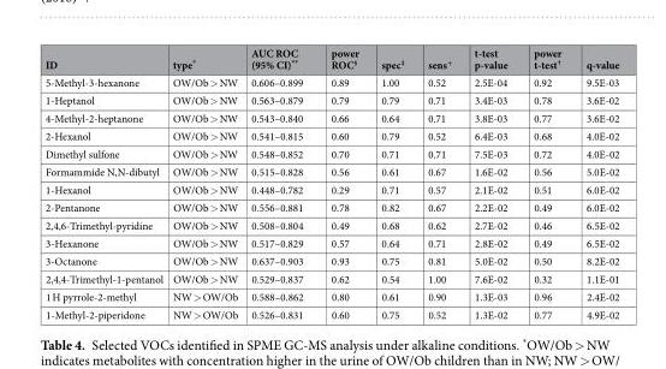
<table><thead><tr><td>ID</td><td>type*</td><td>AUC ROC (95% CI)**</td><td>power ROC<sup>§</sup></td><td>spec<sup>‡</sup></td><td>sens<sup>+</sup></td><td>t-test p-value</td><td>power t-test<sup>†</sup></td><td>q-value</td></tr></thead><tbody><tr><td>5-Methyl-3-hexanone</td><td>OW/Ob &gt; NW</td><td>0.606–0.899</td><td>0.89</td><td>1.00</td><td>0.52</td><td>2.5E-04</td><td>0.92</td><td>9.5E-03</td></tr><tr><td>1-Heptanol</td><td>OW/Ob &gt; NW</td><td>0.563–0.879</td><td>0.79</td><td>0.79</td><td>0.71</td><td>3.4E-03</td><td>0.78</td><td>3.6E-02</td></tr><tr><td>4-Methyl-2-heptanone</td><td>OW/Ob &gt; NW</td><td>0.543–0.840</td><td>0.66</td><td>0.64</td><td>0.71</td><td>3.8E-03</td><td>0.77</td><td>3.6E-02</td></tr><tr><td>2-Hexanol</td><td>OW/Ob &gt; NW</td><td>0.541–0.815</td><td>0.60</td><td>0.79</td><td>0.52</td><td>6.4E-03</td><td>0.68</td><td>4.0E-02</td></tr><tr><td>Dimethyl sulfone</td><td>OW/Ob &gt; NW</td><td>0.548–0.852</td><td>0.70</td><td>0.71</td><td>0.71</td><td>7.5E-03</td><td>0.72</td><td>4.0E-02</td></tr><tr><td>Formammide N,N-dibutyl</td><td>OW/Ob &gt; NW</td><td>0.515–0.828</td><td>0.56</td><td>0.61</td><td>0.67</td><td>1.6E-02</td><td>0.56</td><td>5.0E-02</td></tr><tr><td>1-Hexanol</td><td>OW/Ob &gt; NW</td><td>0.448–0.782</td><td>0.29</td><td>0.71</td><td>0.57</td><td>2.1E-02</td><td>0.51</td><td>6.0E-02</td></tr><tr><td>2-Pentanone</td><td>OW/Ob &gt; NW</td><td>0.556–0.881</td><td>0.78</td><td>0.82</td><td>0.67</td><td>2.2E-02</td><td>0.49</td><td>6.0E-02</td></tr><tr><td>2,4,6-Trimethyl-pyridine</td><td>OW/Ob &gt; NW</td><td>0.508–0.804</td><td>0.49</td><td>0.68</td><td>0.62</td><td>2.7E-02</td><td>0.46</td><td>6.5E-02</td></tr><tr><td>3-Hexanone</td><td>OW/Ob &gt; NW</td><td>0.517–0.829</td><td>0.57</td><td>0.64</td><td>0.71</td><td>2.8E-02</td><td>0.49</td><td>6.5E-02</td></tr><tr><td>3-Octanone</td><td>OW/Ob &gt; NW</td><td>0.637–0.903</td><td>0.93</td><td>0.75</td><td>0.81</td><td>5.0E-02</td><td>0.50</td><td>8.2E-02</td></tr><tr><td>2,4,4-Trimethyl-1-pentanol</td><td>OW/Ob &gt; NW</td><td>0.529–0.837</td><td>0.62</td><td>0.54</td><td>1.00</td><td>7.6E-02</td><td>0.32</td><td>1.1E-01</td></tr><tr><td>1 H pyrrole-2-methyl</td><td>NW &gt; OW/Ob</td><td>0.588–0.862</td><td>0.80</td><td>0.61</td><td>0.90</td><td>1.3E-03</td><td>0.96</td><td>2.4E-02</td></tr><tr><td>1-Methyl-2-piperidone</td><td>NW &gt; OW/Ob</td><td>0.526–0.831</td><td>0.60</td><td>0.75</td><td>0.52</td><td>1.3E-02</td><td>0.77</td><td>4.9E-02</td></tr></tbody></table>